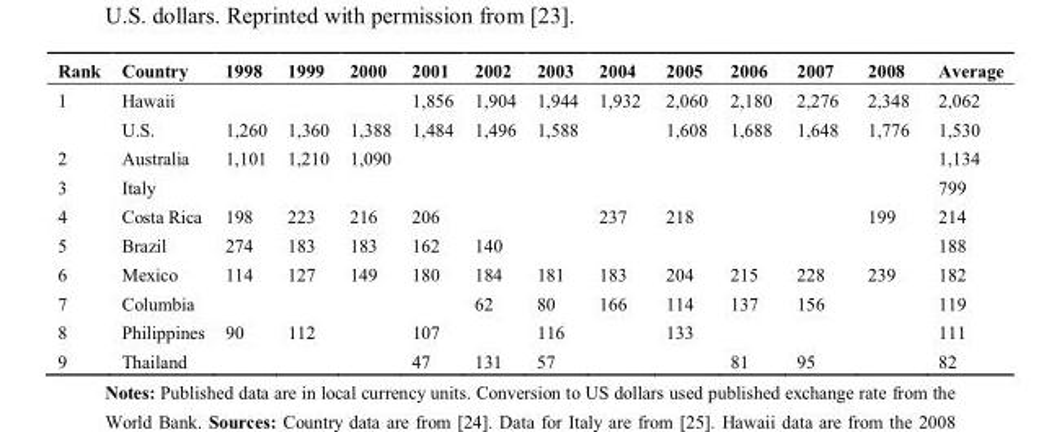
<table><thead><tr><td>Rank</td><td>Country</td><td>1998</td><td>1999</td><td>2000</td><td>2001</td><td>2002</td><td>2003</td><td>2004</td><td>2005</td><td>2006</td><td>2007</td><td>2008</td><td>Average</td></tr></thead><tbody><tr><td rowspan="2">1</td><td>Hawaii</td><td></td><td></td><td></td><td>1,856</td><td>1,904</td><td>1,944</td><td>1,932</td><td>2,060</td><td>2,180</td><td>2,276</td><td>2,348</td><td>2,062</td></tr><tr><td>U.S.</td><td>1,260</td><td>1,360</td><td>1,388</td><td>1,484</td><td>1,496</td><td>1,588</td><td></td><td>1,608</td><td>1,688</td><td>1,648</td><td>1,776</td><td>1,530</td></tr><tr><td>2</td><td>Australia</td><td>1,101</td><td>1,210</td><td>1,090</td><td></td><td></td><td></td><td></td><td></td><td></td><td></td><td></td><td>1,134</td></tr><tr><td>3</td><td>Italy</td><td></td><td></td><td></td><td></td><td></td><td></td><td></td><td></td><td></td><td></td><td></td><td>799</td></tr><tr><td>4</td><td>Costa Rica</td><td>198</td><td>223</td><td>216</td><td>206</td><td></td><td></td><td>237</td><td>218</td><td></td><td></td><td>199</td><td>214</td></tr><tr><td>5</td><td>Brazil</td><td>274</td><td>183</td><td>183</td><td>162</td><td>140</td><td></td><td></td><td></td><td></td><td></td><td></td><td>188</td></tr><tr><td>6</td><td>Mexico</td><td>114</td><td>127</td><td>149</td><td>180</td><td>184</td><td>181</td><td>183</td><td>204</td><td>215</td><td>228</td><td>239</td><td>182</td></tr><tr><td>7</td><td colspan="2">Columbia</td><td></td><td></td><td></td><td>62</td><td>80</td><td>166</td><td>114</td><td>137</td><td>156</td><td></td><td>119</td></tr><tr><td>8</td><td>Philippines</td><td>90</td><td>112</td><td></td><td>107</td><td></td><td>116</td><td></td><td>133</td><td></td><td></td><td></td><td>111</td></tr><tr><td>9</td><td>Thailand</td><td></td><td></td><td></td><td>47</td><td>131</td><td>57</td><td></td><td></td><td>81</td><td>95</td><td></td><td>82</td></tr></tbody></table>